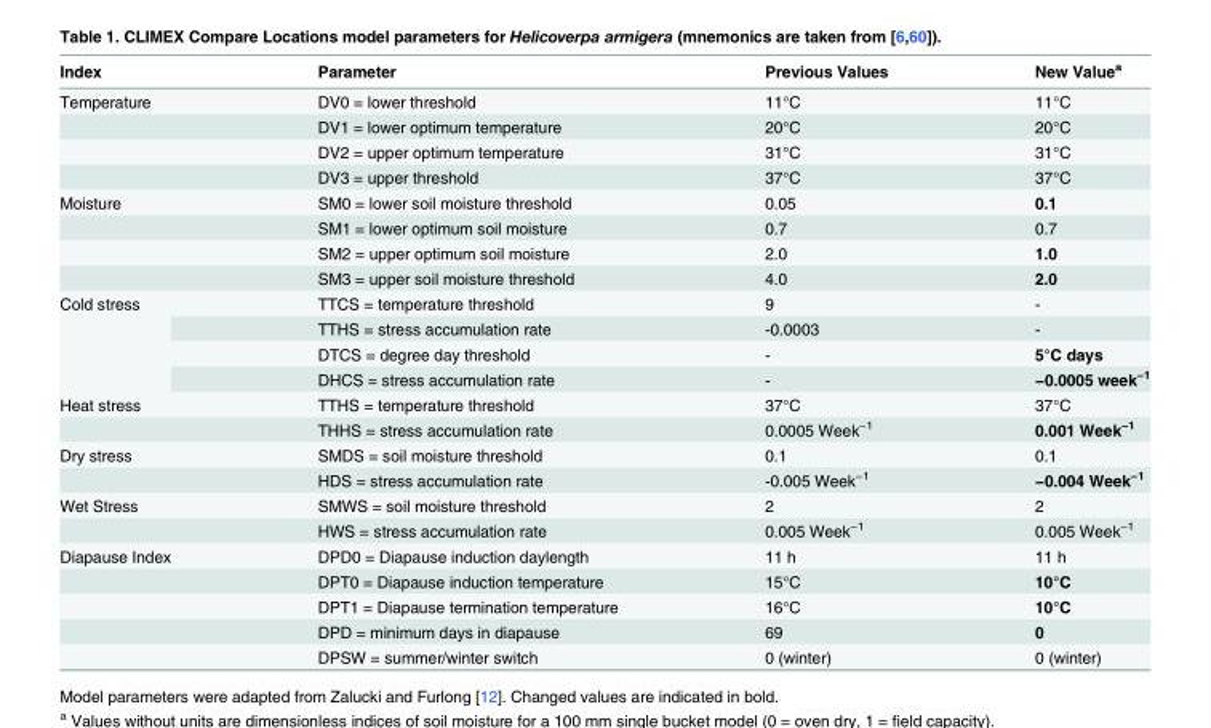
<table><thead><tr><td>Index</td><td>Parameter</td><td>Previous Values</td><td>New Value<sup>a</sup></td></tr></thead><tbody><tr><td rowspan="4">Temperature</td><td>DV0 = lower threshold</td><td>11°C</td><td>11°C</td></tr><tr><td>DV1 = lower optimum temperature</td><td>20°C</td><td>20°C</td></tr><tr><td>DV2 = upper optimum temperature</td><td>31°C</td><td>31°C</td></tr><tr><td>DV3 = upper threshold</td><td>37°C</td><td>37°C</td></tr><tr><td rowspan="4">Moisture</td><td>SM0 = lower soil moisture threshold</td><td>0.05</td><td>0.1</td></tr><tr><td>SM1 = lower optimum soil moisture</td><td>0.7</td><td>0.7</td></tr><tr><td>SM2 = upper optimum soil moisture</td><td>2.0</td><td>1.0</td></tr><tr><td>SM3 = upper soil moisture threshold</td><td>4.0</td><td>2.0</td></tr><tr><td rowspan="4">Cold stress</td><td>TTCS = temperature threshold</td><td>9</td><td>-</td></tr><tr><td>TTHS = stress accumulation rate</td><td>-0.0003</td><td>-</td></tr><tr><td>DTCS = degree day threshold</td><td>-</td><td>5°C days</td></tr><tr><td>DHCS = stress accumulation rate</td><td>-</td><td>−0.0005 week<sup>−1</sup></td></tr><tr><td rowspan="2">Heat stress</td><td>TTHS = temperature threshold</td><td>37°C</td><td>37°C</td></tr><tr><td>THHS = stress accumulation rate</td><td>0.0005 Week<sup>−1</sup></td><td>0.001 Week<sup>−1</sup></td></tr><tr><td rowspan="2">Dry stress</td><td>SMDS = soil moisture threshold</td><td>0.1</td><td>0.1</td></tr><tr><td>HDS = stress accumulation rate</td><td>-0.005 Week<sup>−1</sup></td><td>−0.004 Week<sup>−1</sup></td></tr><tr><td rowspan="2">Wet Stress</td><td>SMWS = soil moisture threshold</td><td>2</td><td>2</td></tr><tr><td>HWS = stress accumulation rate</td><td>0.005 Week<sup>−1</sup></td><td>0.005 Week<sup>−1</sup></td></tr><tr><td rowspan="5">Diapause Index</td><td>DPD0 = Diapause induction daylength</td><td>11 h</td><td>11 h</td></tr><tr><td>DPT0 = Diapause induction temperature</td><td>15°C</td><td>10°C</td></tr><tr><td>DPT1 = Diapause termination temperature</td><td>16°C</td><td>10°C</td></tr><tr><td>DPD = minimum days in diapause</td><td>69</td><td>0</td></tr><tr><td>DPSW = summer/winter switch</td><td>0 (winter)</td><td>0 (winter)</td></tr></tbody></table>